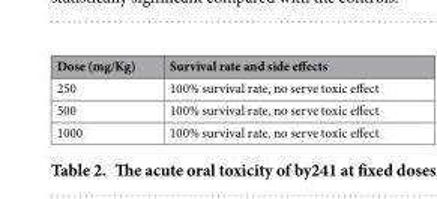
<table><thead><tr><td>Dose (mg/Kg)</td><td>Survival rate and side effects</td></tr></thead><tbody><tr><td>250</td><td>100% survival rate, no serve toxic effect</td></tr><tr><td>500</td><td>100% survival rate, no serve toxic effect</td></tr><tr><td>1000</td><td>100% survival rate, no serve toxic effect</td></tr></tbody></table>